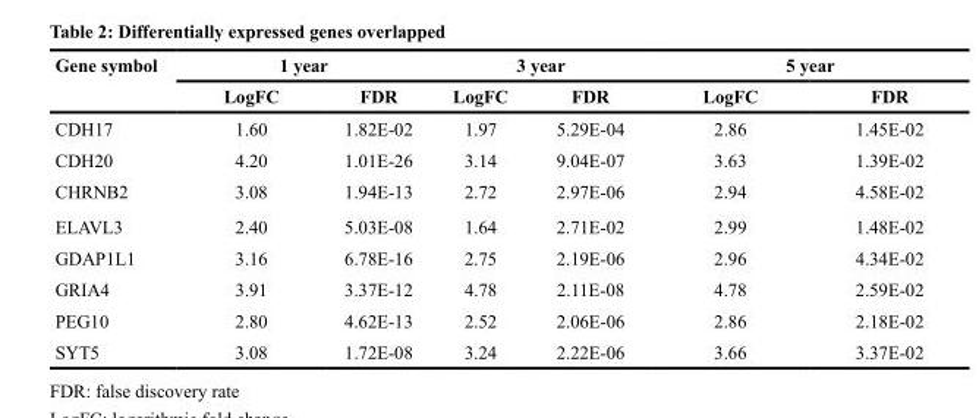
<table><thead><tr><td rowspan="2">Gene symbol</td><td colspan="2">1 year</td><td colspan="2">3 year</td><td colspan="2">5 year</td></tr><tr><td>LogFC</td><td>FDR</td><td>LogFC</td><td>FDR</td><td>LogFC</td><td>FDR</td></tr></thead><tbody><tr><td>CDH17</td><td>1.60</td><td>1.82E-02</td><td>1.97</td><td>5.29E-04</td><td>2.86</td><td>1.45E-02</td></tr><tr><td>CDH20</td><td>4.20</td><td>1.01E-26</td><td>3.14</td><td>9.04E-07</td><td>3.63</td><td>1.39E-02</td></tr><tr><td>CHRNB2</td><td>3.08</td><td>1.94E-13</td><td>2.72</td><td>2.97E-06</td><td>2.94</td><td>4.58E-02</td></tr><tr><td>ELAVL3</td><td>2.40</td><td>5.03E-08</td><td>1.64</td><td>2.71E-02</td><td>2.99</td><td>1.48E-02</td></tr><tr><td>GDAP1L1</td><td>3.16</td><td>6.78E-16</td><td>2.75</td><td>2.19E-06</td><td>2.96</td><td>4.34E-02</td></tr><tr><td>GRIA4</td><td>3.91</td><td>3.37E-12</td><td>4.78</td><td>2.11E-08</td><td>4.78</td><td>2.59E-02</td></tr><tr><td>PEG10</td><td>2.80</td><td>4.62E-13</td><td>2.52</td><td>2.06E-06</td><td>2.86</td><td>2.18E-02</td></tr><tr><td>SYT5</td><td>3.08</td><td>1.72E-08</td><td>3.24</td><td>2.22E-06</td><td>3.66</td><td>3.37E-02</td></tr></tbody></table>